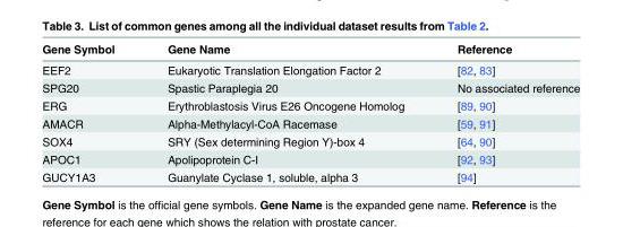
<table><thead><tr><td>Gene Symbol</td><td>Gene Name</td><td>Reference</td></tr></thead><tbody><tr><td>EEF2</td><td>Eukaryotic Translation Elongation Factor 2</td><td>[82, 83]</td></tr><tr><td>SPG20</td><td>Spastic Paraplegia 20</td><td>No associated reference</td></tr><tr><td>ERG</td><td>Erythroblastosis Virus E26 Oncogene Homolog</td><td>[89, 90]</td></tr><tr><td>AMACR</td><td>Alpha-Methylacyl-CoA Racemase</td><td>[59, 91]</td></tr><tr><td>SOX4</td><td>SRY (Sex determining Region Y)-box 4</td><td>[64, 90]</td></tr><tr><td>APOC1</td><td>Apolipoprotein C-I</td><td>[92, 93]</td></tr><tr><td>GUCY1A3</td><td>Guanylate Cyclase 1, soluble, alpha 3</td><td>[94]</td></tr></tbody></table>